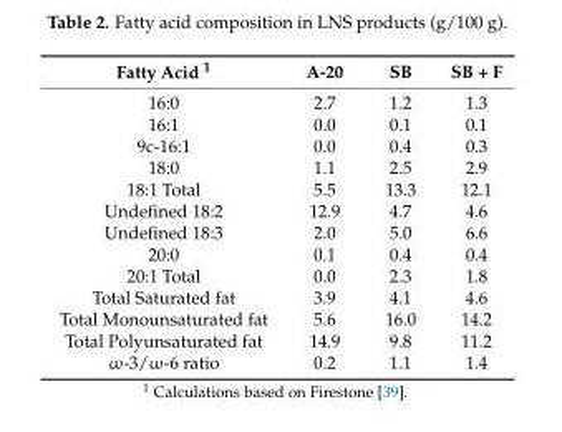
<table><thead><tr><td>Fatty Acid <sup>1</sup></td><td>A-20</td><td>SB</td><td>SB + F</td></tr></thead><tbody><tr><td>16:0</td><td>2.7</td><td>1.2</td><td>1.3</td></tr><tr><td>16:1</td><td>0.0</td><td>0.1</td><td>0.1</td></tr><tr><td>9c-16:1</td><td>0.0</td><td>0.4</td><td>0.3</td></tr><tr><td>18:0</td><td>1.1</td><td>2.5</td><td>2.9</td></tr><tr><td>18:1 Total</td><td>5.5</td><td>13.3</td><td>12.1</td></tr><tr><td>Undefined 18:2</td><td>12.9</td><td>4.7</td><td>4.6</td></tr><tr><td>Undefined 18:3</td><td>2.0</td><td>5.0</td><td>6.6</td></tr><tr><td>20:0</td><td>0.1</td><td>0.4</td><td>0.4</td></tr><tr><td>20:1 Total</td><td>0.0</td><td>2.3</td><td>1.8</td></tr><tr><td>Total Saturated fat</td><td>3.9</td><td>4.1</td><td>4.6</td></tr><tr><td>Total Monounsaturated fat</td><td>5.6</td><td>16.0</td><td>14.2</td></tr><tr><td>Total Polyunsaturated fat</td><td>14.9</td><td>9.8</td><td>11.2</td></tr><tr><td>ω-3/ω-6 ratio</td><td>0.2</td><td>1.1</td><td>1.4</td></tr></tbody></table>